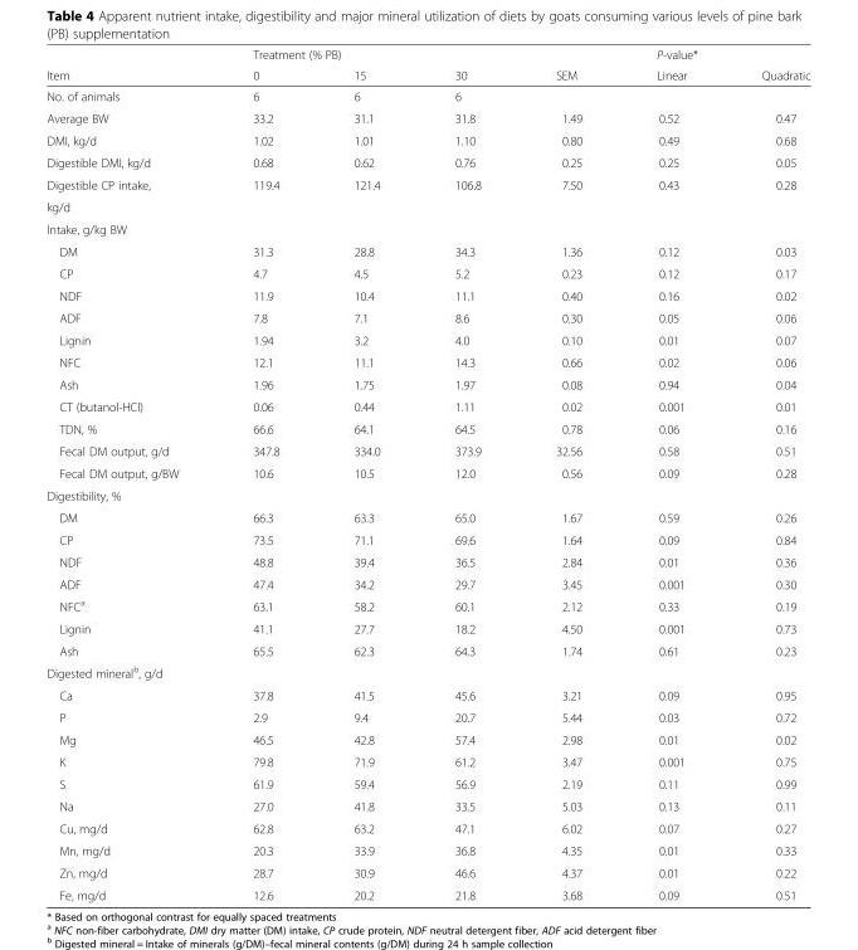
<table><thead><tr><td rowspan="2">Item</td><td colspan="3">Treatment (% PB)</td><td rowspan="2">SEM</td><td colspan="2">P-value*</td></tr><tr><td>0</td><td>15</td><td>30</td><td>Linear</td><td>Quadratic</td></tr></thead><tbody><tr><td>No. of animals</td><td>6</td><td>6</td><td>6</td><td></td><td></td><td></td></tr><tr><td>Average BW</td><td>33.2</td><td>31.1</td><td>31.8</td><td>1.49</td><td>0.52</td><td>0.47</td></tr><tr><td>DMI, kg/d</td><td>1.02</td><td>1.01</td><td>1.10</td><td>0.80</td><td>0.49</td><td>0.68</td></tr><tr><td>Digestible DMI, kg/d</td><td>0.68</td><td>0.62</td><td>0.76</td><td>0.25</td><td>0.25</td><td>0.05</td></tr><tr><td>Digestible CP intake,</td><td>119.4</td><td>121.4</td><td>106.8</td><td>7.50</td><td>0.43</td><td>0.28</td></tr><tr><td colspan="7">kg/d</td></tr><tr><td colspan="7">Intake, g/kg BW</td></tr><tr><td>DM</td><td>31.3</td><td>28.8</td><td>34.3</td><td>1.36</td><td>0.12</td><td>0.03</td></tr><tr><td>CP</td><td>4.7</td><td>4.5</td><td>5.2</td><td>0.23</td><td>0.12</td><td>0.17</td></tr><tr><td>NDF</td><td>11.9</td><td>10.4</td><td>11.1</td><td>0.40</td><td>0.16</td><td>0.02</td></tr><tr><td>ADF</td><td>7.8</td><td>7.1</td><td>8.6</td><td>0.30</td><td>0.05</td><td>0.06</td></tr><tr><td>Lignin</td><td>1.94</td><td>3.2</td><td>4.0</td><td>0.10</td><td>0.01</td><td>0.07</td></tr><tr><td>NFC</td><td>12.1</td><td>11.1</td><td>14.3</td><td>0.66</td><td>0.02</td><td>0.06</td></tr><tr><td>Ash</td><td>1.96</td><td>1.75</td><td>1.97</td><td>0.08</td><td>0.94</td><td>0.04</td></tr><tr><td>CT (butanol-HCl)</td><td>0.06</td><td>0.44</td><td>1.11</td><td>0.02</td><td>0.001</td><td>0.01</td></tr><tr><td>TDN, %</td><td>66.6</td><td>64.1</td><td>64.5</td><td>0.78</td><td>0.06</td><td>0.16</td></tr><tr><td>Fecal DM output, g/d</td><td>347.8</td><td>334.0</td><td>373.9</td><td>32.56</td><td>0.58</td><td>0.51</td></tr><tr><td>Fecal DM output, g/BW</td><td>10.6</td><td>10.5</td><td>12.0</td><td>0.56</td><td>0.09</td><td>0.28</td></tr><tr><td colspan="7">Digestibility, %</td></tr><tr><td>DM</td><td>66.3</td><td>63.3</td><td>65.0</td><td>1.67</td><td>0.59</td><td>0.26</td></tr><tr><td>CP</td><td>73.5</td><td>71.1</td><td>69.6</td><td>1.64</td><td>0.09</td><td>0.84</td></tr><tr><td>NDF</td><td>48.8</td><td>39.4</td><td>36.5</td><td>2.84</td><td>0.01</td><td>0.36</td></tr><tr><td>ADF</td><td>47.4</td><td>34.2</td><td>29.7</td><td>3.45</td><td>0.001</td><td>0.30</td></tr><tr><td>NFC<sup>a</sup></td><td>63.1</td><td>58.2</td><td>60.1</td><td>2.12</td><td>0.33</td><td>0.19</td></tr><tr><td>Lignin</td><td>41.1</td><td>27.7</td><td>18.2</td><td>4.50</td><td>0.001</td><td>0.73</td></tr><tr><td>Ash</td><td>65.5</td><td>62.3</td><td>64.3</td><td>1.74</td><td>0.61</td><td>0.23</td></tr><tr><td colspan="7">Digested mineral<sup>b</sup>, g/d</td></tr><tr><td>Ca</td><td>37.8</td><td>41.5</td><td>45.6</td><td>3.21</td><td>0.09</td><td>0.95</td></tr><tr><td>P</td><td>2.9</td><td>9.4</td><td>20.7</td><td>5.44</td><td>0.03</td><td>0.72</td></tr><tr><td>Mg</td><td>46.5</td><td>42.8</td><td>57.4</td><td>2.98</td><td>0.01</td><td>0.02</td></tr><tr><td>K</td><td>79.8</td><td>71.9</td><td>61.2</td><td>3.47</td><td>0.001</td><td>0.75</td></tr><tr><td>S</td><td>61.9</td><td>59.4</td><td>56.9</td><td>2.19</td><td>0.11</td><td>0.99</td></tr><tr><td>Na</td><td>27.0</td><td>41.8</td><td>33.5</td><td>5.03</td><td>0.13</td><td>0.11</td></tr><tr><td>Cu, mg/d</td><td>62.8</td><td>63.2</td><td>47.1</td><td>6.02</td><td>0.07</td><td>0.27</td></tr><tr><td>Mn, mg/d</td><td>20.3</td><td>33.9</td><td>36.8</td><td>4.35</td><td>0.01</td><td>0.33</td></tr><tr><td>Zn, mg/d</td><td>28.7</td><td>30.9</td><td>46.6</td><td>4.37</td><td>0.01</td><td>0.22</td></tr><tr><td>Fe, mg/d</td><td>12.6</td><td>20.2</td><td>21.8</td><td>3.68</td><td>0.09</td><td>0.51</td></tr></tbody></table>